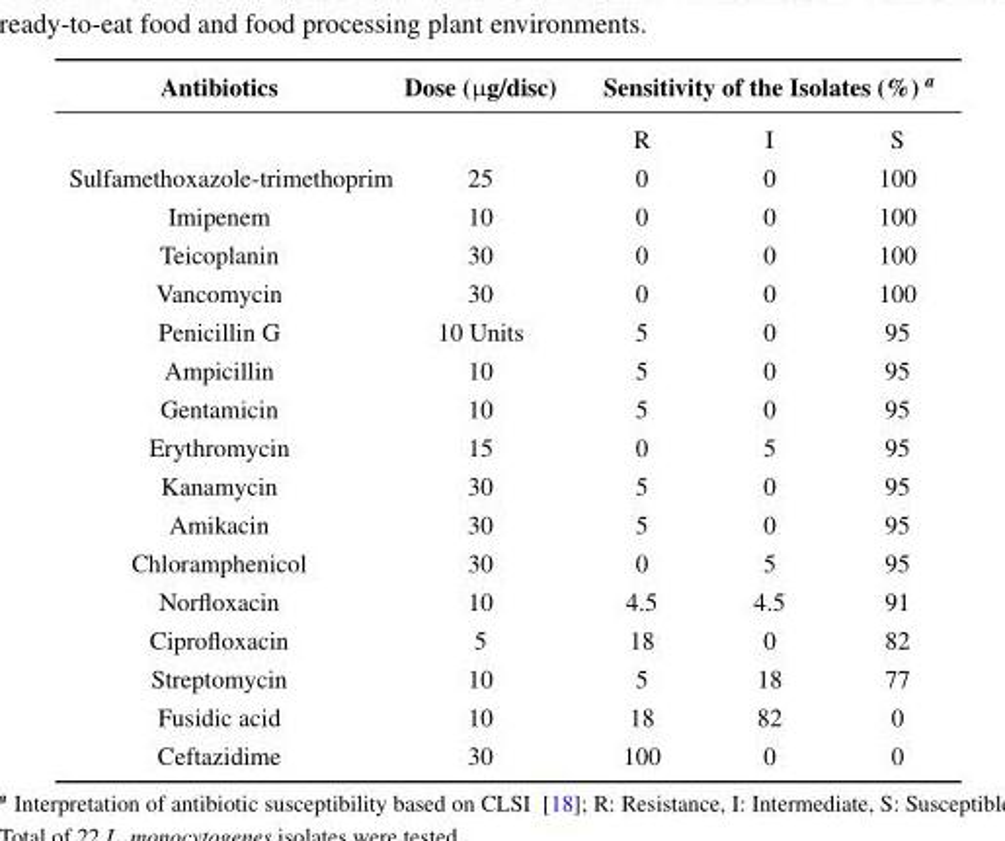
<table><thead><tr><td rowspan="2">Antibiotics</td><td rowspan="2">Dose (µg/disc)</td><td colspan="3">Sensitivity of the Isolates (%) <sup>a</sup></td></tr><tr><td>R</td><td>I</td><td>S</td></tr></thead><tbody><tr><td>Sulfamethoxazole-trimethoprim</td><td>25</td><td>0</td><td>0</td><td>100</td></tr><tr><td>Imipenem</td><td>10</td><td>0</td><td>0</td><td>100</td></tr><tr><td>Teicoplanin</td><td>30</td><td>0</td><td>0</td><td>100</td></tr><tr><td>Vancomycin</td><td>30</td><td>0</td><td>0</td><td>100</td></tr><tr><td>Penicillin G</td><td>10 Units</td><td>5</td><td>0</td><td>95</td></tr><tr><td>Ampicillin</td><td>10</td><td>5</td><td>0</td><td>95</td></tr><tr><td>Gentamicin</td><td>10</td><td>5</td><td>0</td><td>95</td></tr><tr><td>Erythromycin</td><td>15</td><td>0</td><td>5</td><td>95</td></tr><tr><td>Kanamycin</td><td>30</td><td>5</td><td>0</td><td>95</td></tr><tr><td>Amikacin</td><td>30</td><td>5</td><td>0</td><td>95</td></tr><tr><td>Chloramphenicol</td><td>30</td><td>0</td><td>5</td><td>95</td></tr><tr><td>Norfloxacin</td><td>10</td><td>4.5</td><td>4.5</td><td>91</td></tr><tr><td>Ciprofloxacin</td><td>5</td><td>18</td><td>0</td><td>82</td></tr><tr><td>Streptomycin</td><td>10</td><td>5</td><td>18</td><td>77</td></tr><tr><td>Fusidic acid</td><td>10</td><td>18</td><td>82</td><td>0</td></tr><tr><td>Ceftazidime</td><td>30</td><td>100</td><td>0</td><td>0</td></tr></tbody></table>